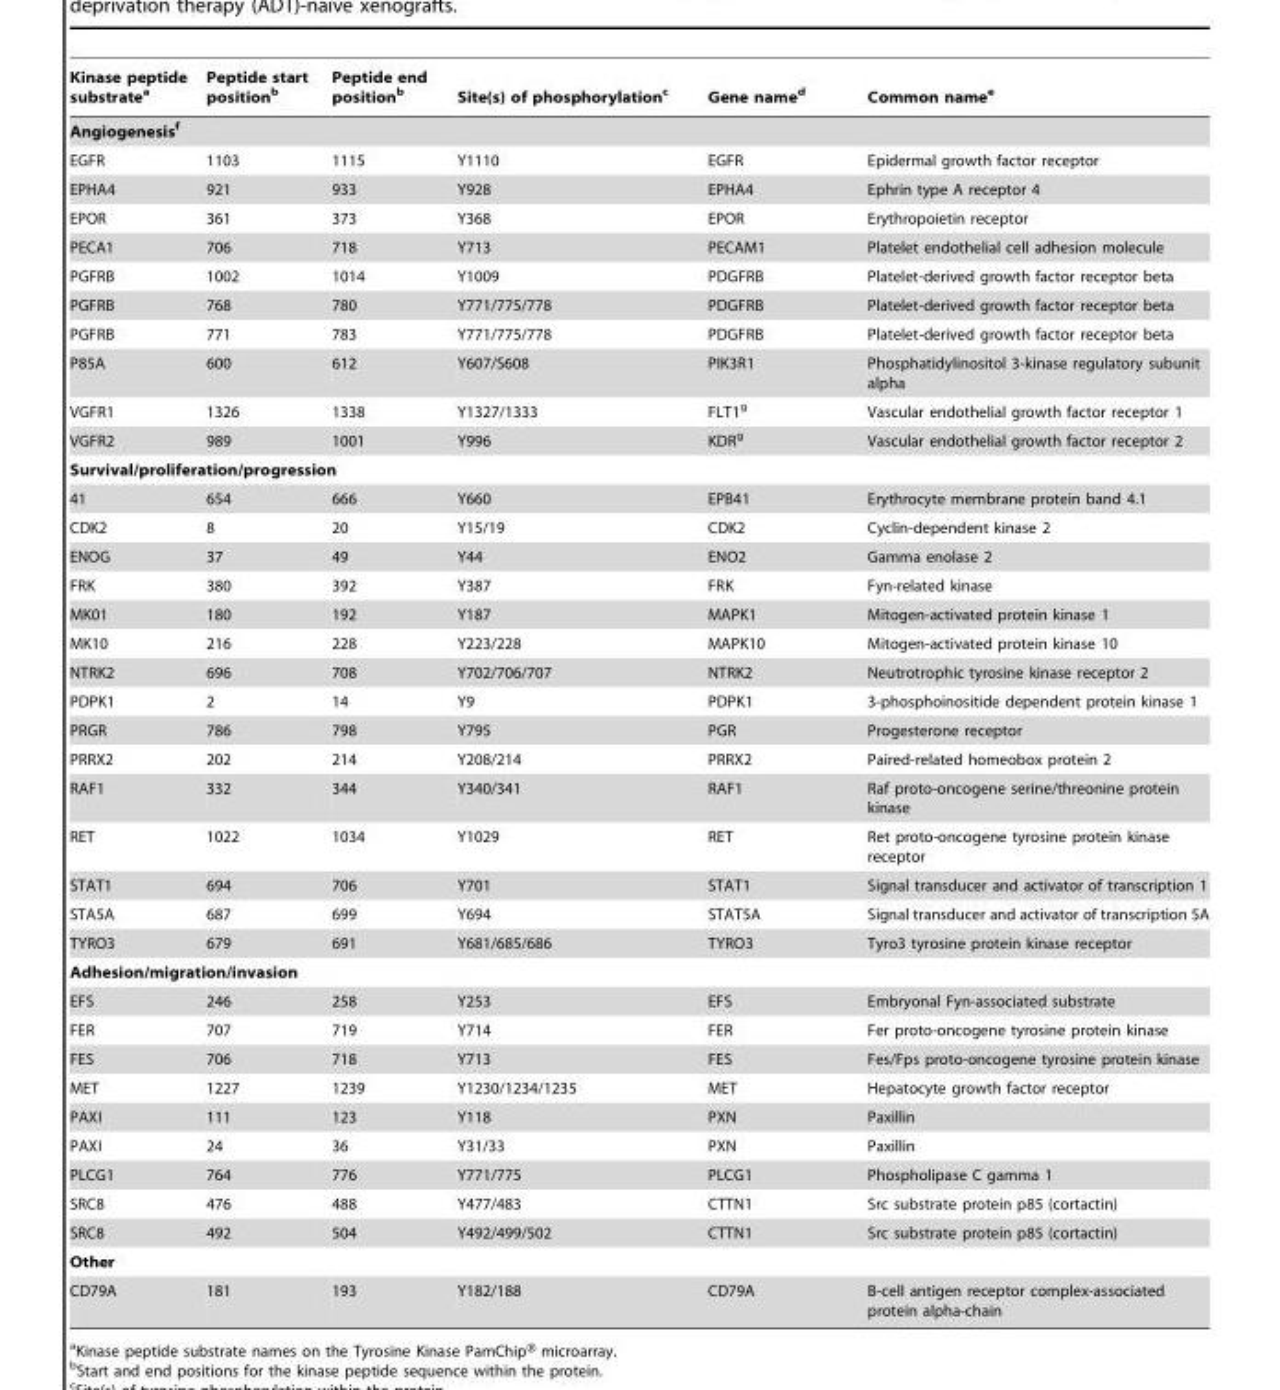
<table><thead><tr><td>Kinase peptide substrate<sup>a</sup></td><td>Peptide start position<sup>b</sup></td><td>Peptide end position<sup>b</sup></td><td>Site(s) of phosphorylation<sup>c</sup></td><td>Gene name<sup>d</sup></td><td>Common name<sup>e</sup></td></tr></thead><tbody><tr><td colspan="6">Angiogenesisf</td></tr><tr><td>EGFR</td><td>1103</td><td>1115</td><td>Y1110</td><td>EGFR</td><td>Epidermal growth factor receptor</td></tr><tr><td>EPHA4</td><td>921</td><td>933</td><td>Y928</td><td>EPHA4</td><td>Ephrin type A receptor 4</td></tr><tr><td>EPOR</td><td>361</td><td>373</td><td>Y368</td><td>EPOR</td><td>Erythropoietin receptor</td></tr><tr><td>PECA1</td><td>706</td><td>718</td><td>Y713</td><td>PECAM1</td><td>Platelet endothelial cell adhesion molecule</td></tr><tr><td>PGFRB</td><td>1002</td><td>1014</td><td>Y1009</td><td>PDGFRB</td><td>Platelet-derived growth factor receptor beta</td></tr><tr><td>PGFRB</td><td>768</td><td>780</td><td>Y771/775/778</td><td>PDGFRB</td><td>Platelet-derived growth factor receptor beta</td></tr><tr><td>PGFRB</td><td>771</td><td>783</td><td>Y771/775/778</td><td>PDGFRB</td><td>Platelet-derived growth factor receptor beta</td></tr><tr><td>P85A</td><td>600</td><td>612</td><td>Y607/S608</td><td>PIK3R1</td><td>Phosphatidylinositol 3-kinase regulatory subunit alpha</td></tr><tr><td>VGFR1</td><td>1326</td><td>1338</td><td>Y1327/1333</td><td>FLT1<sup>g</sup></td><td>Vascular endothelial growth factor receptor 1</td></tr><tr><td>VGFR2</td><td>989</td><td>1001</td><td>Y996</td><td>KDR<sup>g</sup></td><td>Vascular endothelial growth factor receptor 2</td></tr><tr><td colspan="6">Survival/proliferation/progression</td></tr><tr><td>41</td><td>654</td><td>666</td><td>Y660</td><td>EPB41</td><td>Erythrocyte membrane protein band 4.1</td></tr><tr><td>CDK2</td><td>8</td><td>20</td><td>Y15/19</td><td>CDK2</td><td>Cyclin-dependent kinase 2</td></tr><tr><td>ENOG</td><td>37</td><td>49</td><td>Y44</td><td>ENO2</td><td>Gamma enolase 2</td></tr><tr><td>FRK</td><td>380</td><td>392</td><td>Y387</td><td>FRK</td><td>Fyn-related kinase</td></tr><tr><td>MK01</td><td>180</td><td>192</td><td>Y187</td><td>MAPK1</td><td>Mitogen-activated protein kinase 1</td></tr><tr><td>MK10</td><td>216</td><td>228</td><td>Y223/228</td><td>MAPK10</td><td>Mitogen-activated protein kinase 10</td></tr><tr><td>NTRK2</td><td>696</td><td>708</td><td>Y702/706/707</td><td>NTRK2</td><td>Neutrotrophic tyrosine kinase receptor 2</td></tr><tr><td>PDPK1</td><td>2</td><td>14</td><td>Y9</td><td>PDPK1</td><td>3-phosphoinositide dependent protein kinase 1</td></tr><tr><td>PRGR</td><td>786</td><td>798</td><td>Y795</td><td>PGR</td><td>Progesterone receptor</td></tr><tr><td>PRRX2</td><td>202</td><td>214</td><td>Y208/214</td><td>PRRX2</td><td>Paired-related homeobox protein 2</td></tr><tr><td>RAF1</td><td>332</td><td>344</td><td>Y340/341</td><td>RAF1</td><td>Raf proto-oncogene serine/threonine protein kinase</td></tr><tr><td>RET</td><td>1022</td><td>1034</td><td>Y1029</td><td>RET</td><td>Ret proto-oncogene tyrosine protein kinase receptor</td></tr><tr><td>STAT1</td><td>694</td><td>706</td><td>Y701</td><td>STAT1</td><td>Signal transducer and activator of transcription 1</td></tr><tr><td>STA5A</td><td>687</td><td>699</td><td>Y694</td><td>STAT5A</td><td>Signal transducer and activator of transcription 5A</td></tr><tr><td>TYRO3</td><td>679</td><td>691</td><td>Y681/685/686</td><td>TYRO3</td><td>Tyro3 tyrosine protein kinase receptor</td></tr><tr><td colspan="6">Adhesion/migration/invasion</td></tr><tr><td>EFS</td><td>246</td><td>258</td><td>Y253</td><td>EFS</td><td>Embryonal Fyn-associated substrate</td></tr><tr><td>FER</td><td>707</td><td>719</td><td>Y714</td><td>FER</td><td>Fer proto-oncogene tyrosine protein kinase</td></tr><tr><td>FES</td><td>706</td><td>718</td><td>Y713</td><td>FES</td><td>Fes/Fps proto-oncogene tyrosine protein kinase</td></tr><tr><td>MET</td><td>1227</td><td>1239</td><td>Y1230/1234/1235</td><td>MET</td><td>Hepatocyte growth factor receptor</td></tr><tr><td>PAXI</td><td>111</td><td>123</td><td>Y118</td><td>PXN</td><td>Paxillin</td></tr><tr><td>PAXI</td><td>24</td><td>36</td><td>Y31/33</td><td>PXN</td><td>Paxillin</td></tr><tr><td>PLCG1</td><td>764</td><td>776</td><td>Y771/775</td><td>PLCG1</td><td>Phospholipase C gamma 1</td></tr><tr><td>SRC8</td><td>476</td><td>488</td><td>Y477/483</td><td>CTTN1</td><td>Src substrate protein p85 (cortactin)</td></tr><tr><td>SRC8</td><td>492</td><td>504</td><td>Y492/499/502</td><td>CTTN1</td><td>Src substrate protein p85 (cortactin)</td></tr><tr><td colspan="6">Other</td></tr><tr><td>CD79A</td><td>181</td><td>193</td><td>Y182/188</td><td>CD79A</td><td>B-cell antigen receptor complex-associated protein alpha-chain</td></tr></tbody></table>